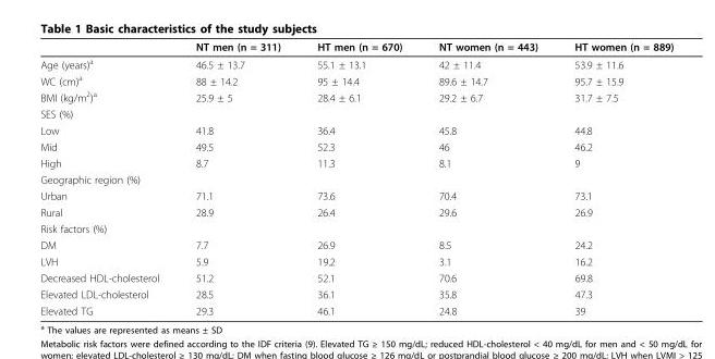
<table><thead><tr><td></td><td>NT men (n = 311)</td><td>HT men (n = 670)</td><td>NT women (n = 443)</td><td>HT women (n = 889)</td></tr></thead><tbody><tr><td>Age (years)<sup>a</sup></td><td>46.5 ± 13.7</td><td>55.1 ± 13.1</td><td>42 ± 11.4</td><td>53.9 ± 11.6</td></tr><tr><td>WC (cm)<sup>a</sup></td><td>88 ± 14.2</td><td>95 ± 14.4</td><td>89.6 ± 14.7</td><td>95.7 ± 15.9</td></tr><tr><td>BMI (kg/m<sup>2</sup>)<sup>a</sup></td><td>25.9 ± 5</td><td>28.4 ± 6.1</td><td>29.2 ± 6.7</td><td>31.7 ± 7.5</td></tr><tr><td colspan="5">SES (%)</td></tr><tr><td>Low</td><td>41.8</td><td>36.4</td><td>45.8</td><td>44.8</td></tr><tr><td>Mid</td><td>49.5</td><td>52.3</td><td>46</td><td>46.2</td></tr><tr><td>High</td><td>8.7</td><td>11.3</td><td>8.1</td><td>9</td></tr><tr><td colspan="5">Geographic region (%)</td></tr><tr><td>Urban</td><td>71.1</td><td>73.6</td><td>70.4</td><td>73.1</td></tr><tr><td>Rural</td><td>28.9</td><td>26.4</td><td>29.6</td><td>26.9</td></tr><tr><td colspan="5">Risk factors (%)</td></tr><tr><td>DM</td><td>7.7</td><td>26.9</td><td>8.5</td><td>24.2</td></tr><tr><td>LVH</td><td>5.9</td><td>19.2</td><td>3.1</td><td>16.2</td></tr><tr><td>Decreased HDL-cholesterol</td><td>51.2</td><td>52.1</td><td>70.6</td><td>69.8</td></tr><tr><td>Elevated LDL-cholesterol</td><td>28.5</td><td>36.1</td><td>35.8</td><td>47.3</td></tr><tr><td>Elevated TG</td><td>29.3</td><td>46.1</td><td>24.8</td><td>39</td></tr></tbody></table>